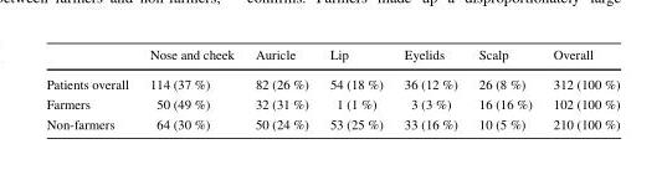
<table><thead><tr><td></td><td>Nose and cheek</td><td>Auricle</td><td>Lip</td><td>Eyelids</td><td>Scalp</td><td>Overall</td></tr></thead><tbody><tr><td>Patients overall</td><td>114 (37 %)</td><td>82 (26 %)</td><td>54 (18 %)</td><td>36 (12 %)</td><td>26 (8 %)</td><td>312 (100 %)</td></tr><tr><td>Farmers</td><td>50 (49 %)</td><td>32 (31 %)</td><td>1 (1 %)</td><td>3 (3 %)</td><td>16 (16 %)</td><td>102 (100 %)</td></tr><tr><td>Non-farmers</td><td>64 (30 %)</td><td>50 (24 %)</td><td>53 (25 %)</td><td>33 (16 %)</td><td>10 (5 %)</td><td>210 (100 %)</td></tr></tbody></table>